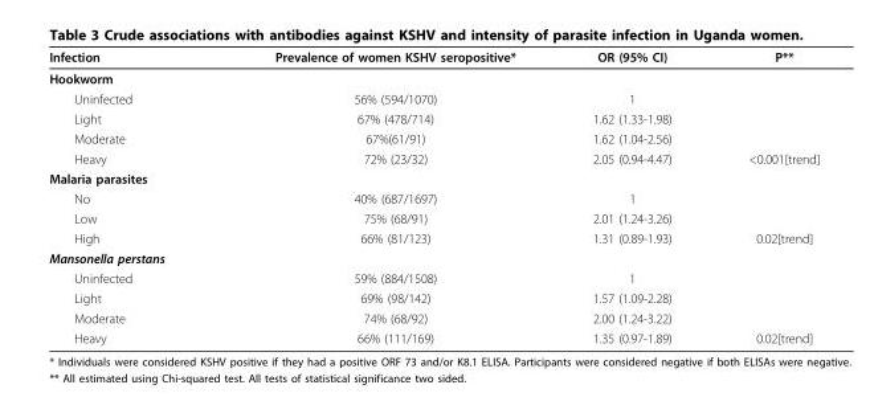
<table><thead><tr><td>Infection</td><td>Prevalence of women KSHV seropositive*</td><td>OR (95% CI)</td><td>P**</td></tr></thead><tbody><tr><td colspan="4">Hookworm</td></tr><tr><td>Uninfected</td><td>56% (594/1070)</td><td>1</td><td></td></tr><tr><td>Light</td><td>67% (478/714)</td><td>1.62 (1.33-1.98)</td><td></td></tr><tr><td>Moderate</td><td>67%(61/91)</td><td>1.62 (1.04-2.56)</td><td></td></tr><tr><td>Heavy</td><td>72% (23/32)</td><td>2.05 (0.94-4.47)</td><td>&lt;0.001[trend]</td></tr><tr><td colspan="4">Malaria parasites</td></tr><tr><td>No</td><td>40% (687/1697)</td><td>1</td><td></td></tr><tr><td>Low</td><td>75% (68/91)</td><td>2.01 (1.24-3.26)</td><td></td></tr><tr><td>High</td><td>66% (81/123)</td><td>1.31 (0.89-1.93)</td><td>0.02[trend]</td></tr><tr><td colspan="4">Mansonella perstans</td></tr><tr><td>Uninfected</td><td>59% (884/1508)</td><td>1</td><td></td></tr><tr><td>Light</td><td>69% (98/142)</td><td>1.57 (1.09-2.28)</td><td></td></tr><tr><td>Moderate</td><td>74% (68/92)</td><td>2.00 (1.24-3.22)</td><td></td></tr><tr><td>Heavy</td><td>66% (111/169)</td><td>1.35 (0.97-1.89)</td><td>0.02[trend]</td></tr></tbody></table>